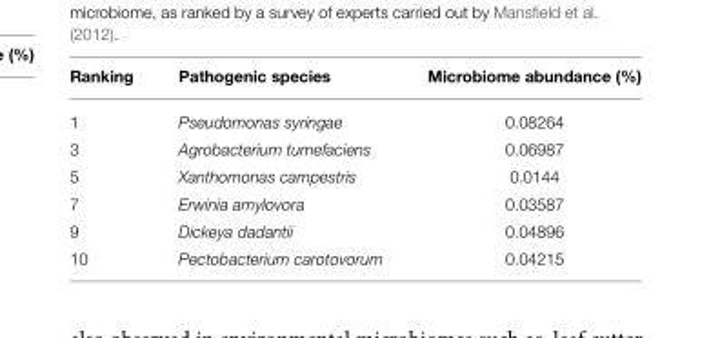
<table><thead><tr><td>Ranking</td><td>Pathogenic species</td><td>Microbiome abundance (%)</td></tr></thead><tbody><tr><td>1</td><td>Pseudomonas syringae</td><td>0.08264</td></tr><tr><td>3</td><td>Agrobacterium tumefaciens</td><td>0.06987</td></tr><tr><td>5</td><td>Xanthomonas campestris</td><td>0.0144</td></tr><tr><td>7</td><td>Erwinia amylovora</td><td>0.03587</td></tr><tr><td>9</td><td>Dickeya dadantii</td><td>0.04896</td></tr><tr><td>10</td><td>Pectobacterium carotovorum</td><td>0.04215</td></tr></tbody></table>